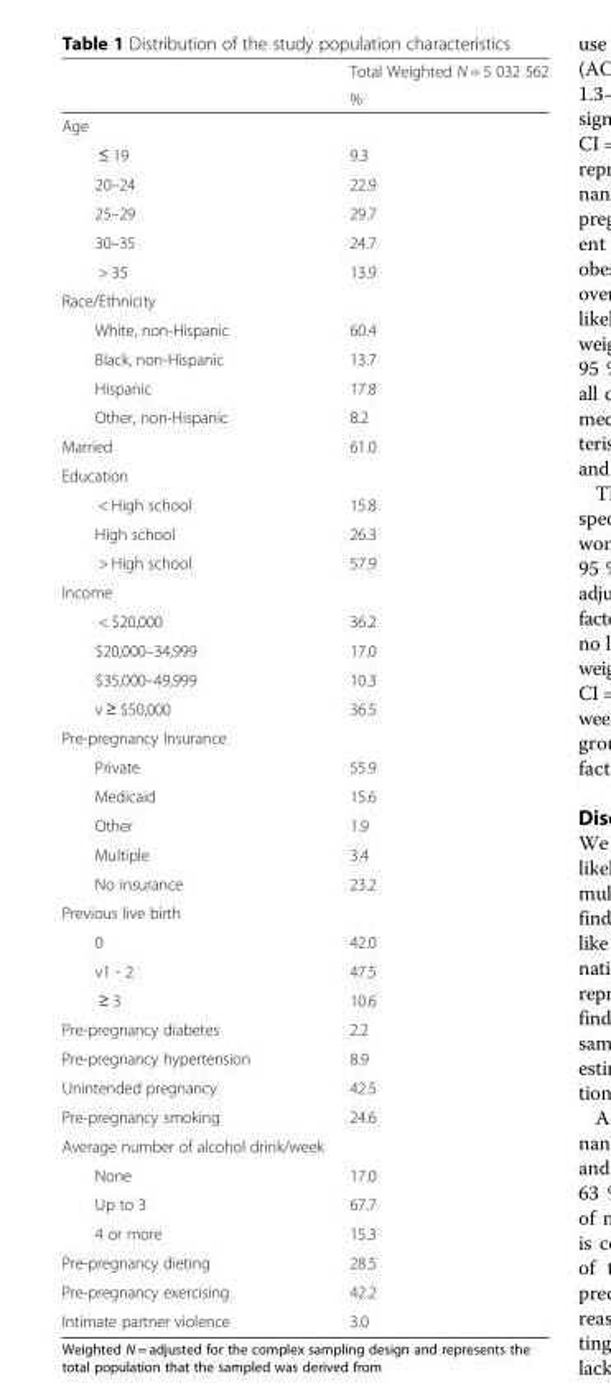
<table><thead><tr><td rowspan="2"></td><td rowspan="2">Total Weighted N = 5 032 562 %</td></tr><tr></tr></thead><tbody><tr><td colspan="2">Age</td></tr><tr><td>≤ 19</td><td>9.3</td></tr><tr><td>20–24</td><td>22.9</td></tr><tr><td>25–29</td><td>29.7</td></tr><tr><td>30–35</td><td>24.7</td></tr><tr><td>&gt; 35</td><td>13.9</td></tr><tr><td colspan="2">Race/Ethnicity</td></tr><tr><td>White, non-Hispanic</td><td>60.4</td></tr><tr><td>Black, non-Hispanic</td><td>13.7</td></tr><tr><td>Hispanic</td><td>17.8</td></tr><tr><td>Other, non-Hispanic</td><td>8.2</td></tr><tr><td>Married</td><td>61.0</td></tr><tr><td colspan="2">Education</td></tr><tr><td>&lt; High school</td><td>15.8</td></tr><tr><td>High school</td><td>26.3</td></tr><tr><td>&gt; High school</td><td>57.9</td></tr><tr><td colspan="2">Income</td></tr><tr><td>&lt; $20,000</td><td>36.2</td></tr><tr><td>$20,000–34,999</td><td>17.0</td></tr><tr><td>$35,000–49,999</td><td>10.3</td></tr><tr><td>v ≥ $50,000</td><td>36.5</td></tr><tr><td colspan="2">Pre-pregnancy Insurance</td></tr><tr><td>Private</td><td>55.9</td></tr><tr><td>Medicaid</td><td>15.6</td></tr><tr><td>Other</td><td>1.9</td></tr><tr><td>Multiple</td><td>3.4</td></tr><tr><td>No insurance</td><td>23.2</td></tr><tr><td colspan="2">Previous live birth</td></tr><tr><td>0</td><td>42.0</td></tr><tr><td>v1 - 2</td><td>47.5</td></tr><tr><td>≥ 3</td><td>10.6</td></tr><tr><td>Pre-pregnancy diabetes</td><td>2.2</td></tr><tr><td>Pre-pregnancy hypertension</td><td>8.9</td></tr><tr><td>Unintended pregnancy</td><td>42.5</td></tr><tr><td>Pre-pregnancy smoking</td><td>24.6</td></tr><tr><td colspan="2">Average number of alcohol drink/week</td></tr><tr><td>None</td><td>17.0</td></tr><tr><td>Up to 3</td><td>67.7</td></tr><tr><td>4 or more</td><td>15.3</td></tr><tr><td>Pre-pregnancy dieting</td><td>28.5</td></tr><tr><td>Pre-pregnancy exercising</td><td>42.2</td></tr><tr><td>Intimate partner violence</td><td>3.0</td></tr></tbody></table>